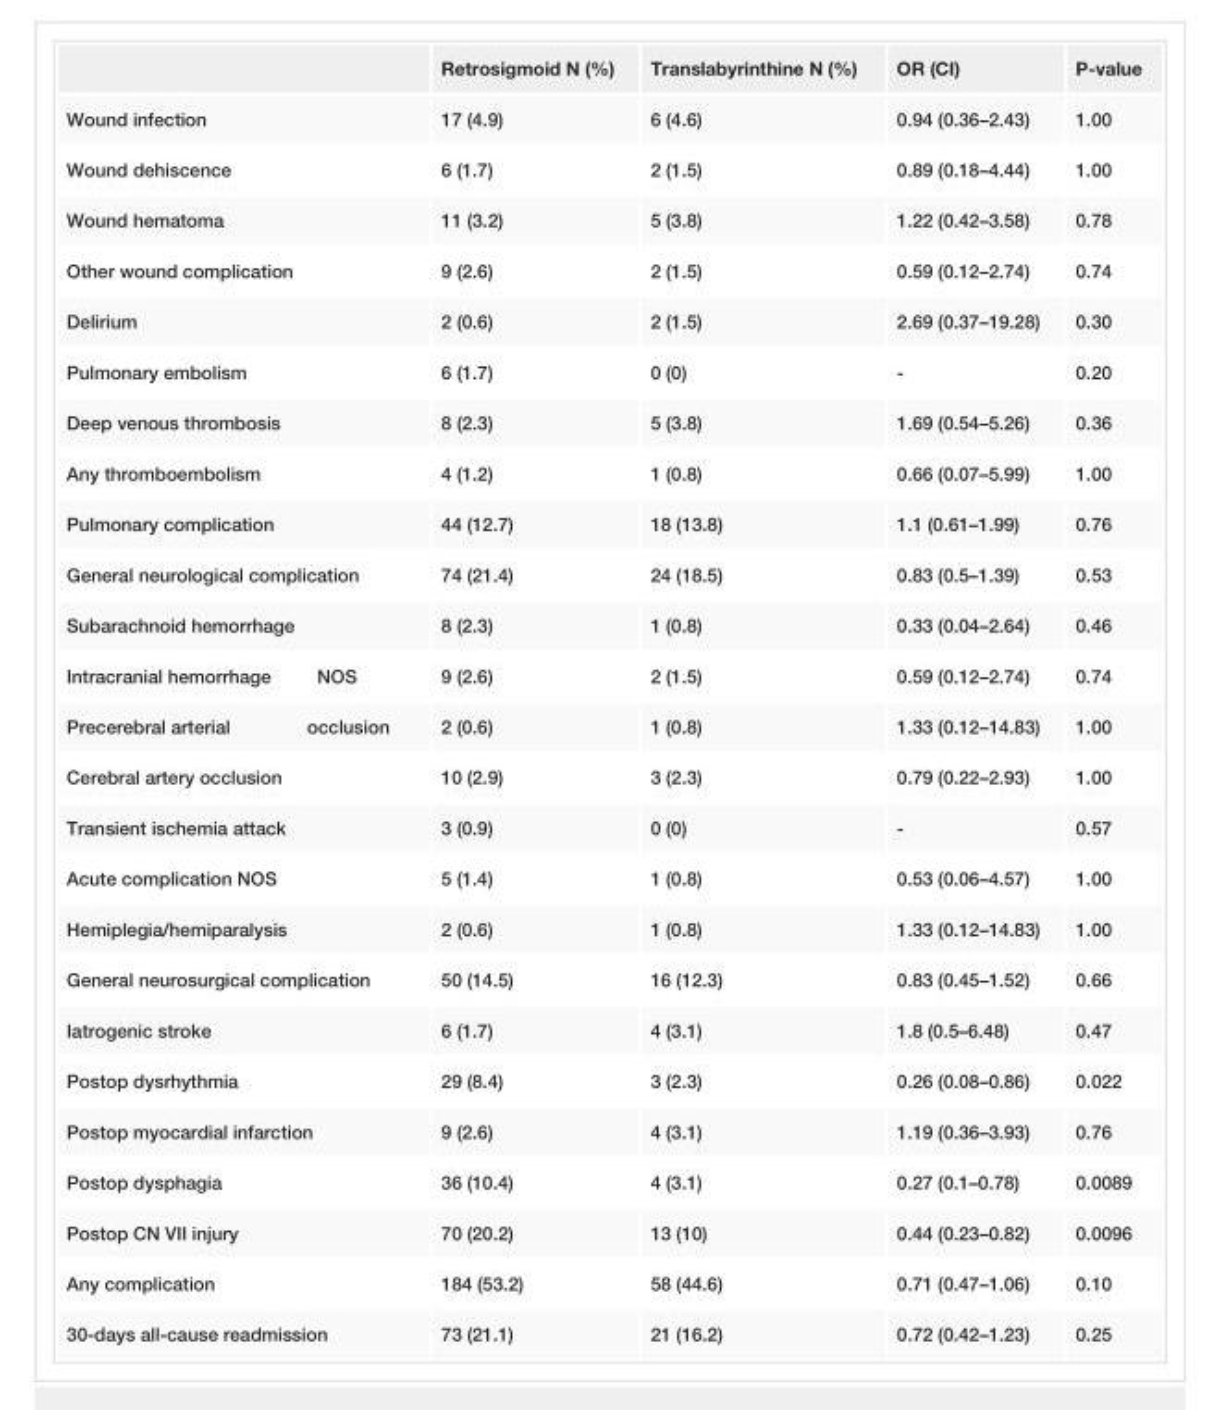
<table><thead><tr><td></td><td>Retrosigmoid N (%)</td><td>Translabyrinthine N (%)</td><td>OR (CI)</td><td>P-value</td></tr></thead><tbody><tr><td>Wound infection</td><td>17 (4.9)</td><td>6 (4.6)</td><td>0.94 (0.36–2.43)</td><td>1.00</td></tr><tr><td>Wound dehiscence</td><td>6 (1.7)</td><td>2 (1.5)</td><td>0.89 (0.18–4.44)</td><td>1.00</td></tr><tr><td>Wound hematoma</td><td>11 (3.2)</td><td>5 (3.8)</td><td>1.22 (0.42–3.58)</td><td>0.78</td></tr><tr><td>Other wound complication</td><td>9 (2.6)</td><td>2 (1.5)</td><td>0.59 (0.12–2.74)</td><td>0.74</td></tr><tr><td>Delirium</td><td>2 (0.6)</td><td>2 (1.5)</td><td>2.69 (0.37–19.28)</td><td>0.30</td></tr><tr><td>Pulmonary embolism</td><td>6 (1.7)</td><td>0 (0)</td><td>-</td><td>0.20</td></tr><tr><td>Deep venous thrombosis</td><td>8 (2.3)</td><td>5 (3.8)</td><td>1.69 (0.54–5.26)</td><td>0.36</td></tr><tr><td>Any thromboembolism</td><td>4 (1.2)</td><td>1 (0.8)</td><td>0.66 (0.07–5.99)</td><td>1.00</td></tr><tr><td>Pulmonary complication</td><td>44 (12.7)</td><td>18 (13.8)</td><td>1.1 (0.61–1.99)</td><td>0.76</td></tr><tr><td>General neurological complication</td><td>74 (21.4)</td><td>24 (18.5)</td><td>0.83 (0.5–1.39)</td><td>0.53</td></tr><tr><td>Subarachnoid hemorrhage</td><td>8 (2.3)</td><td>1 (0.8)</td><td>0.33 (0.04–2.64)</td><td>0.46</td></tr><tr><td>Intracranial hemorrhage NOS</td><td>9 (2.6)</td><td>2 (1.5)</td><td>0.59 (0.12–2.74)</td><td>0.74</td></tr><tr><td>Precerebral arterial occlusion</td><td>2 (0.6)</td><td>1 (0.8)</td><td>1.33 (0.12–14.83)</td><td>1.00</td></tr><tr><td>Cerebral artery occlusion</td><td>10 (2.9)</td><td>3 (2.3)</td><td>0.79 (0.22–2.93)</td><td>1.00</td></tr><tr><td>Transient ischemia attack</td><td>3 (0.9)</td><td>0 (0)</td><td>-</td><td>0.57</td></tr><tr><td>Acute complication NOS</td><td>5 (1.4)</td><td>1 (0.8)</td><td>0.53 (0.06–4.57)</td><td>1.00</td></tr><tr><td>Hemiplegia/hemiparalysis</td><td>2 (0.6)</td><td>1 (0.8)</td><td>1.33 (0.12–14.83)</td><td>1.00</td></tr><tr><td>General neurosurgical complication</td><td>50 (14.5)</td><td>16 (12.3)</td><td>0.83 (0.45–1.52)</td><td>0.66</td></tr><tr><td>Iatrogenic stroke</td><td>6 (1.7)</td><td>4 (3.1)</td><td>1.8 (0.5–6.48)</td><td>0.47</td></tr><tr><td>Postop dysrhythmia</td><td>29 (8.4)</td><td>3 (2.3)</td><td>0.26 (0.08–0.86)</td><td>0.022</td></tr><tr><td>Postop myocardial infarction</td><td>9 (2.6)</td><td>4 (3.1)</td><td>1.19 (0.36–3.93)</td><td>0.76</td></tr><tr><td>Postop dysphagia</td><td>36 (10.4)</td><td>4 (3.1)</td><td>0.27 (0.1–0.78)</td><td>0.0089</td></tr><tr><td>Postop CN VII injury</td><td>70 (20.2)</td><td>13 (10)</td><td>0.44 (0.23–0.82)</td><td>0.0096</td></tr><tr><td>Any complication</td><td>184 (53.2)</td><td>58 (44.6)</td><td>0.71 (0.47–1.06)</td><td>0.10</td></tr><tr><td>30-days all-cause readmission</td><td>73 (21.1)</td><td>21 (16.2)</td><td>0.72 (0.42–1.23)</td><td>0.25</td></tr></tbody></table>